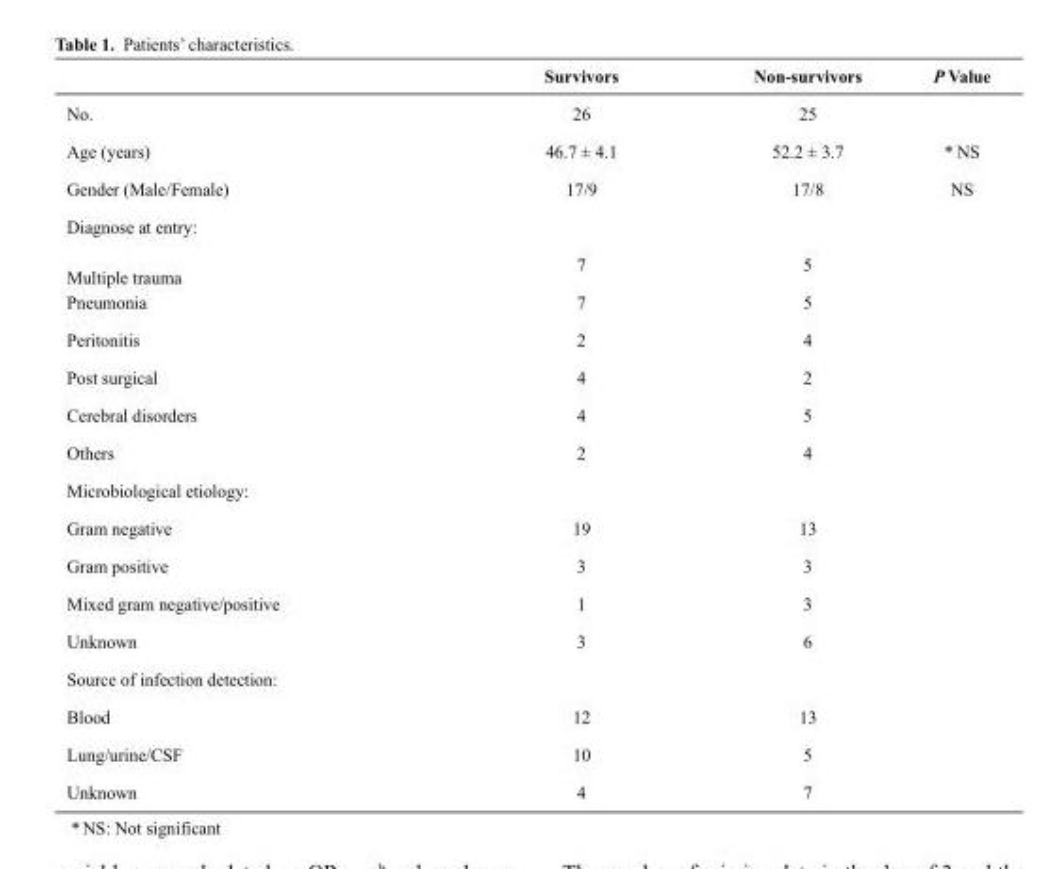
<table><thead><tr><td></td><td>Survivors</td><td>Non-survivors</td><td>P Value</td></tr></thead><tbody><tr><td>No.</td><td>26</td><td>25</td><td></td></tr><tr><td>Age (years)</td><td>46.7 ± 4.1</td><td>52.2 ± 3.7</td><td>* NS</td></tr><tr><td>Gender (Male/Female)</td><td>17/9</td><td>17/8</td><td>NS</td></tr><tr><td colspan="4">Diagnose at entry:</td></tr><tr><td>Multiple trauma</td><td>7</td><td>5</td><td></td></tr><tr><td>Pneumonia</td><td>7</td><td>5</td><td></td></tr><tr><td>Peritonitis</td><td>2</td><td>4</td><td></td></tr><tr><td>Post surgical</td><td>4</td><td>2</td><td></td></tr><tr><td>Cerebral disorders</td><td>4</td><td>5</td><td></td></tr><tr><td>Others</td><td>2</td><td>4</td><td></td></tr><tr><td colspan="4">Microbiological etiology:</td></tr><tr><td>Gram negative</td><td>19</td><td>13</td><td></td></tr><tr><td>Gram positive</td><td>3</td><td>3</td><td></td></tr><tr><td>Mixed gram negative/positive</td><td>1</td><td>3</td><td></td></tr><tr><td>Unknown</td><td>3</td><td>6</td><td></td></tr><tr><td colspan="4">Source of infection detection:</td></tr><tr><td>Blood</td><td>12</td><td>13</td><td></td></tr><tr><td>Lung/urine/CSF</td><td>10</td><td>5</td><td></td></tr><tr><td>Unknown</td><td>4</td><td>7</td><td></td></tr></tbody></table>